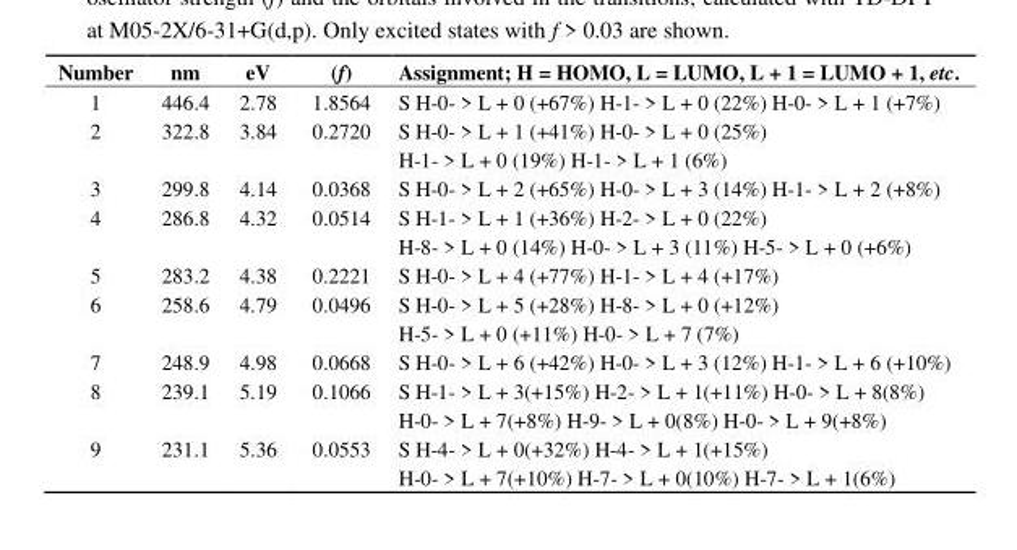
<table><thead><tr><td>Number</td><td>nm</td><td>eV</td><td>(f)</td><td>Assignment; H = HOMO, L = LUMO, L + 1 = LUMO + 1, etc.</td></tr></thead><tbody><tr><td>1</td><td>446.4</td><td>2.78</td><td>1.8564</td><td>S H-0- &gt; L + 0 (+67%) H-1- &gt; L + 0 (22%) H-0- &gt; L + 1 (+7%)</td></tr><tr><td>2</td><td>322.8</td><td>3.84</td><td>0.2720</td><td>S H-0- &gt; L + 1 (+41%) H-0- &gt; L + 0 (25%) H-1- &gt; L + 0 (19%) H-1- &gt; L + 1 (6%)</td></tr><tr><td>3</td><td>299.8</td><td>4.14</td><td>0.0368</td><td>S H-0- &gt; L + 2 (+65%) H-0- &gt; L + 3 (14%) H-1- &gt; L + 2 (+8%)</td></tr><tr><td>4</td><td>286.8</td><td>4.32</td><td>0.0514</td><td>S H-1- &gt; L + 1 (+36%) H-2- &gt; L + 0 (22%) H-8- &gt; L + 0 (14%) H-0- &gt; L + 3 (11%) H-5- &gt; L + 0 (+6%)</td></tr><tr><td>5</td><td>283.2</td><td>4.38</td><td>0.2221</td><td>S H-0- &gt; L + 4 (+77%) H-1- &gt; L + 4 (+17%)</td></tr><tr><td>6</td><td>258.6</td><td>4.79</td><td>0.0496</td><td>S H-0- &gt; L + 5 (+28%) H-8- &gt; L + 0 (+12%) H-5- &gt; L + 0 (+11%) H-0- &gt; L + 7 (7%)</td></tr><tr><td>7</td><td>248.9</td><td>4.98</td><td>0.0668</td><td>S H-0- &gt; L + 6 (+42%) H-0- &gt; L + 3 (12%) H-1- &gt; L + 6 (+10%)</td></tr><tr><td>8</td><td>239.1</td><td>5.19</td><td>0.1066</td><td>S H-1- &gt; L + 3(+15%) H-2- &gt; L + 1(+11%) H-0- &gt; L + 8(8%) H-0- &gt; L + 7(+8%) H-9- &gt; L + 0(8%) H-0- &gt; L + 9(+8%)</td></tr><tr><td>9</td><td>231.1</td><td>5.36</td><td>0.0553</td><td>S H-4- &gt; L + 0(+32%) H-4- &gt; L + 1(+15%) H-0- &gt; L + 7(+10%) H-7- &gt; L + 0(10%) H-7- &gt; L + 1(6%)</td></tr></tbody></table>